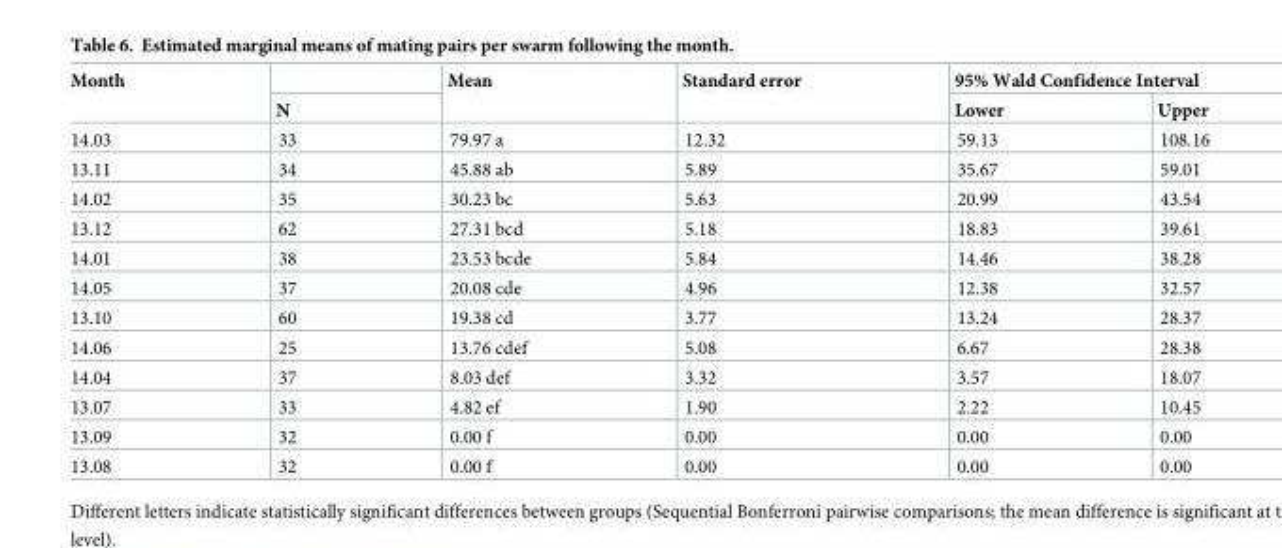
<table><thead><tr><td rowspan="2">Month</td><td rowspan="2">N</td><td rowspan="2">Mean</td><td rowspan="2">Standard error</td><td colspan="2">95% Wald Confidence Interval</td></tr><tr><td>Lower</td><td>Upper</td></tr></thead><tbody><tr><td>14.03</td><td>33</td><td>79.97 a</td><td>12.32</td><td>59.13</td><td>108.16</td></tr><tr><td>13.11</td><td>34</td><td>45.88 ab</td><td>5.89</td><td>35.67</td><td>59.01</td></tr><tr><td>14.02</td><td>35</td><td>30.23 bc</td><td>5.63</td><td>20.99</td><td>43.54</td></tr><tr><td>13.12</td><td>62</td><td>27.31 bcd</td><td>5.18</td><td>18.83</td><td>39.61</td></tr><tr><td>14.01</td><td>38</td><td>23.53 bcde</td><td>5.84</td><td>14.46</td><td>38.28</td></tr><tr><td>14.05</td><td>37</td><td>20.08 cde</td><td>4.96</td><td>12.38</td><td>32.57</td></tr><tr><td>13.10</td><td>60</td><td>19.38 cd</td><td>3.77</td><td>13.24</td><td>28.37</td></tr><tr><td>14.06</td><td>25</td><td>13.76 cdef</td><td>5.08</td><td>6.67</td><td>28.38</td></tr><tr><td>14.04</td><td>37</td><td>8.03 def</td><td>3.32</td><td>3.57</td><td>18.07</td></tr><tr><td>13.07</td><td>33</td><td>4.82 ef</td><td>1.90</td><td>2.22</td><td>10.45</td></tr><tr><td>13.09</td><td>32</td><td>0.00 f</td><td>0.00</td><td>0.00</td><td>0.00</td></tr><tr><td>13.08</td><td>32</td><td>0.00 f</td><td>0.00</td><td>0.00</td><td>0.00</td></tr></tbody></table>